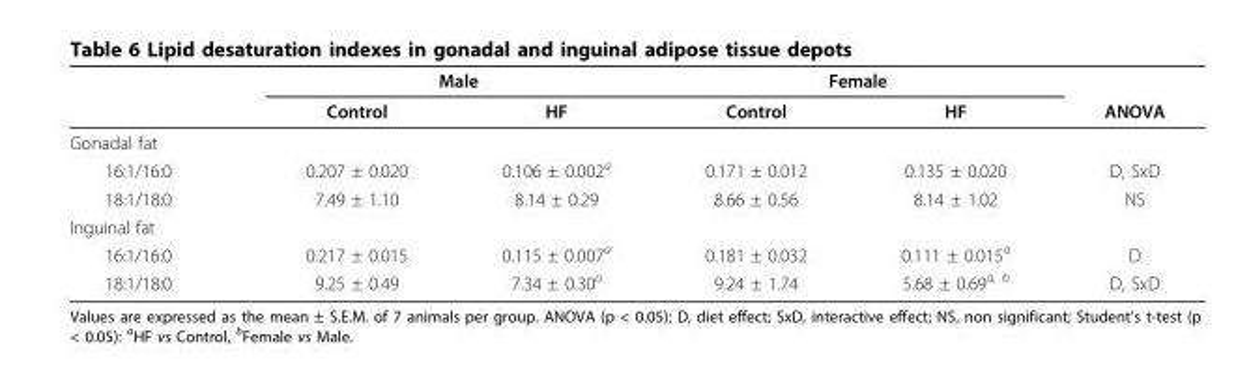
<table><thead><tr><td rowspan="2"></td><td colspan="2">Male</td><td colspan="2">Female</td><td rowspan="2">ANOVA</td></tr><tr><td>Control</td><td>HF</td><td>Control</td><td>HF</td></tr></thead><tbody><tr><td colspan="6">Gonadal fat</td></tr><tr><td>16:1/16:0</td><td>0.207 ± 0.020</td><td>0.106 ± 0.002<sup>a</sup></td><td>0.171 ± 0.012</td><td>0.135 ± 0.020</td><td>D, SxD</td></tr><tr><td>18:1/18:0</td><td>7.49 ± 1.10</td><td>8.14 ± 0.29</td><td>8.66 ± 0.56</td><td>8.14 ± 1.02</td><td>NS</td></tr><tr><td colspan="6">Inguinal fat</td></tr><tr><td>16:1/16:0</td><td>0.217 ± 0.015</td><td>0.115 ± 0.007<sup>a</sup></td><td>0.181 ± 0.032</td><td>0.111 ± 0.015<sup>a</sup></td><td>D</td></tr><tr><td>18:1/18:0</td><td>9.25 ± 0.49</td><td>7.34 ± 0.30<sup>a</sup></td><td>9.24 ± 1.74</td><td>5.68 ± 0.69<sup>a, b</sup></td><td>D, SxD</td></tr></tbody></table>